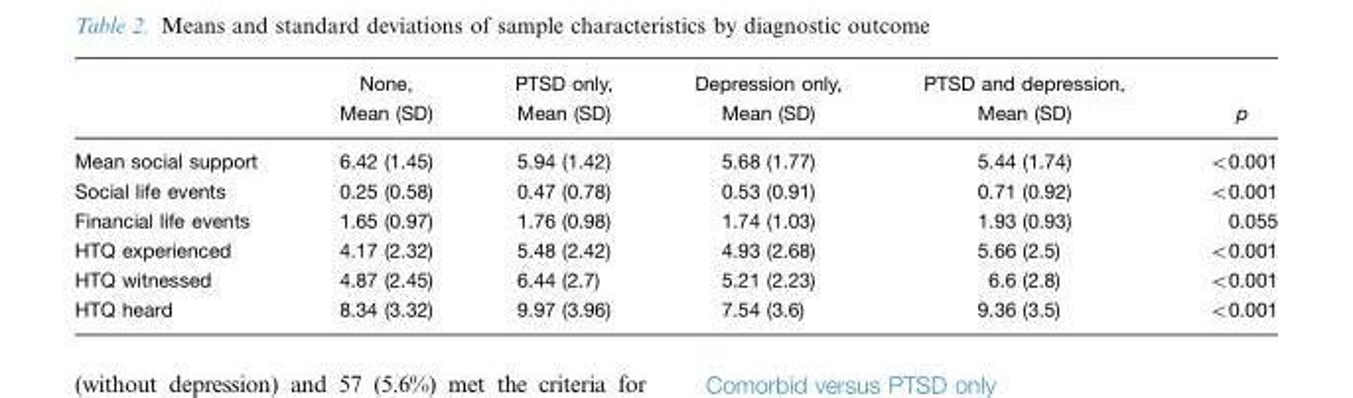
<table><thead><tr><td></td><td>None, Mean (SD)</td><td>PTSD only, Mean (SD)</td><td>Depression only, Mean (SD)</td><td>PTSD and depression, Mean (SD)</td><td>p</td></tr></thead><tbody><tr><td>Mean social support</td><td>6.42 (1.45)</td><td>5.94 (1.42)</td><td>5.68 (1.77)</td><td>5.44 (1.74)</td><td>&lt;0.001</td></tr><tr><td>Social life events</td><td>0.25 (0.58)</td><td>0.47 (0.78)</td><td>0.53 (0.91)</td><td>0.71 (0.92)</td><td>&lt;0.001</td></tr><tr><td>Financial life events</td><td>1.65 (0.97)</td><td>1.76 (0.98)</td><td>1.74 (1.03)</td><td>1.93 (0.93)</td><td>0.055</td></tr><tr><td>HTQ experienced</td><td>4.17 (2.32)</td><td>5.48 (2.42)</td><td>4.93 (2.68)</td><td>5.66 (2.5)</td><td>&lt;0.001</td></tr><tr><td>HTQ witnessed</td><td>4.87 (2.45)</td><td>6.44 (2.7)</td><td>5.21 (2.23)</td><td>6.6 (2.8)</td><td>&lt;0.001</td></tr><tr><td>HTQ heard</td><td>8.34 (3.32)</td><td>9.97 (3.96)</td><td>7.54 (3.6)</td><td>9.36 (3.5)</td><td>&lt;0.001</td></tr></tbody></table>